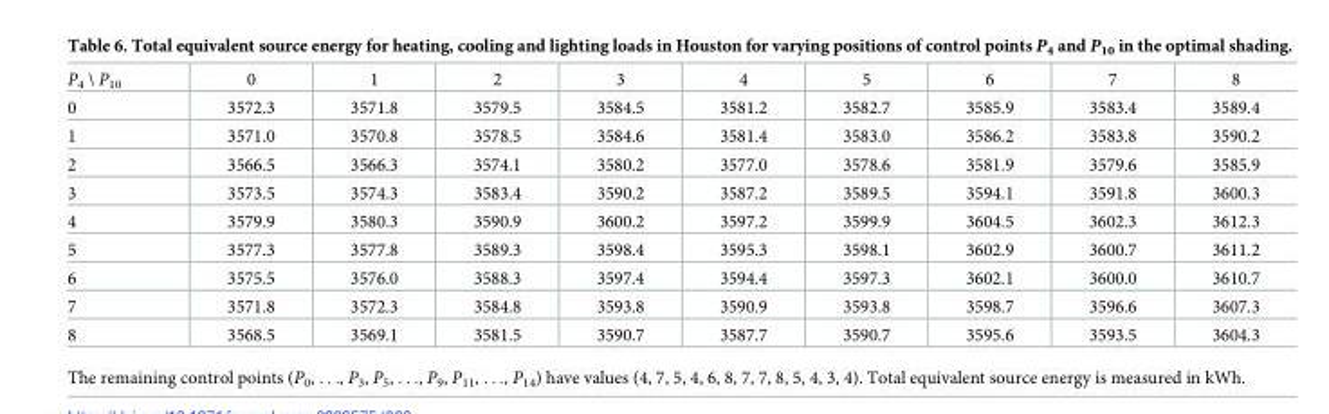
<table><tbody><tr><td>P<sub>4</sub> \ P<sub>10</sub></td><td>0</td><td>1</td><td>2</td><td>3</td><td>4</td><td>5</td><td>6</td><td>7</td><td>8</td></tr><tr><td>0</td><td>3572.3</td><td>3571.8</td><td>3579.5</td><td>3584.5</td><td>3581.2</td><td>3582.7</td><td>3585.9</td><td>3583.4</td><td>3589.4</td></tr><tr><td>1</td><td>3571.0</td><td>3570.8</td><td>3578.5</td><td>3584.6</td><td>3581.4</td><td>3583.0</td><td>3586.2</td><td>3583.8</td><td>3590.2</td></tr><tr><td>2</td><td>3566.5</td><td>3566.3</td><td>3574.1</td><td>3580.2</td><td>3577.0</td><td>3578.6</td><td>3581.9</td><td>3579.6</td><td>3585.9</td></tr><tr><td>3</td><td>3573.5</td><td>3574.3</td><td>3583.4</td><td>3590.2</td><td>3587.2</td><td>3589.5</td><td>3594.1</td><td>3591.8</td><td>3600.3</td></tr><tr><td>4</td><td>3579.9</td><td>3580.3</td><td>3590.9</td><td>3600.2</td><td>3597.2</td><td>3599.9</td><td>3604.5</td><td>3602.3</td><td>3612.3</td></tr><tr><td>5</td><td>3577.3</td><td>3577.8</td><td>3589.3</td><td>3598.4</td><td>3595.3</td><td>3598.1</td><td>3602.9</td><td>3600.7</td><td>3611.2</td></tr><tr><td>6</td><td>3575.5</td><td>3576.0</td><td>3588.3</td><td>3597.4</td><td>3594.4</td><td>3597.3</td><td>3602.1</td><td>3600.0</td><td>3610.7</td></tr><tr><td>7</td><td>3571.8</td><td>3572.3</td><td>3584.8</td><td>3593.8</td><td>3590.9</td><td>3593.8</td><td>3598.7</td><td>3596.6</td><td>3607.3</td></tr><tr><td>8</td><td>3568.5</td><td>3569.1</td><td>3581.5</td><td>3590.7</td><td>3587.7</td><td>3590.7</td><td>3595.6</td><td>3593.5</td><td>3604.3</td></tr></tbody></table>